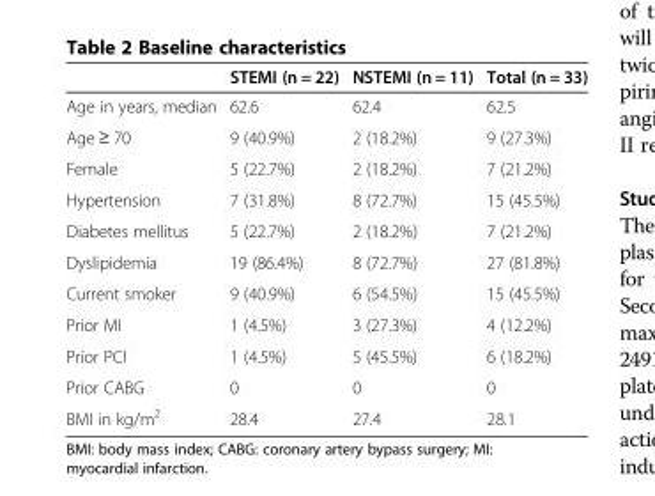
<table><thead><tr><td></td><td>STEMI (n = 22)</td><td>NSTEMI (n = 11)</td><td>Total (n = 33)</td></tr></thead><tbody><tr><td>Age in years, median</td><td>62.6</td><td>62.4</td><td>62.5</td></tr><tr><td>Age ≥ 70</td><td>9 (40.9%)</td><td>2 (18.2%)</td><td>9 (27.3%)</td></tr><tr><td>Female</td><td>5 (22.7%)</td><td>2 (18.2%)</td><td>7 (21.2%)</td></tr><tr><td>Hypertension</td><td>7 (31.8%)</td><td>8 (72.7%)</td><td>15 (45.5%)</td></tr><tr><td>Diabetes mellitus</td><td>5 (22.7%)</td><td>2 (18.2%)</td><td>7 (21.2%)</td></tr><tr><td>Dyslipidemia</td><td>19 (86.4%)</td><td>8 (72.7%)</td><td>27 (81.8%)</td></tr><tr><td>Current smoker</td><td>9 (40.9%)</td><td>6 (54.5%)</td><td>15 (45.5%)</td></tr><tr><td>Prior MI</td><td>1 (4.5%)</td><td>3 (27.3%)</td><td>4 (12.2%)</td></tr><tr><td>Prior PCI</td><td>1 (4.5%)</td><td>5 (45.5%)</td><td>6 (18.2%)</td></tr><tr><td>Prior CABG</td><td>0</td><td>0</td><td>0</td></tr><tr><td>BMI in kg/m<sup>2</sup></td><td>28.4</td><td>27.4</td><td>28.1</td></tr></tbody></table>